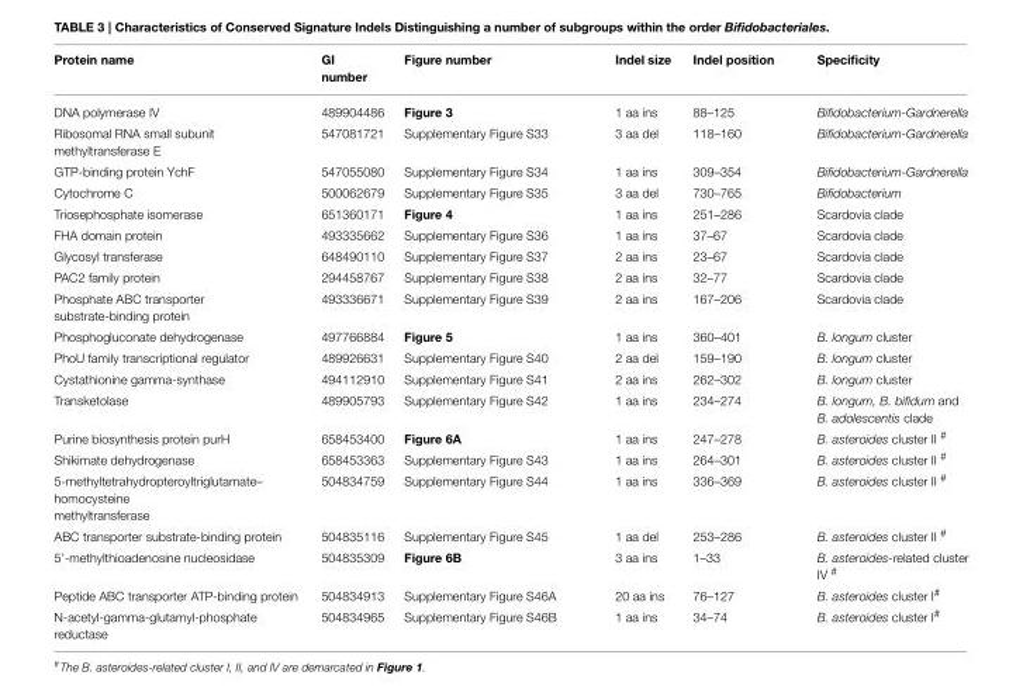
<table><thead><tr><td>Protein name</td><td>GI number</td><td>Figure number</td><td>Indel size</td><td>Indel position</td><td>Specificity</td></tr></thead><tbody><tr><td>DNA polymerase IV</td><td>489904486</td><td>Figure 3</td><td>1 aa ins</td><td>88–125</td><td>Bifidobacterium-Gardnerella</td></tr><tr><td>Ribosomal RNA small subunit methyltransferase E</td><td>547081721</td><td>Supplementary Figure S33</td><td>3 aa del</td><td>118–160</td><td>Bifidobacterium-Gardnerella</td></tr><tr><td>GTP-binding protein YchF</td><td>547055080</td><td>Supplementary Figure S34</td><td>1 aa ins</td><td>309–354</td><td>Bifidobacterium-Gardnerella</td></tr><tr><td>Cytochrome C</td><td>500062679</td><td>Supplementary Figure S35</td><td>3 aa del</td><td>730–765</td><td>Bifidobacterium</td></tr><tr><td>Triosephosphate isomerase</td><td>651360171</td><td>Figure 4</td><td>1 aa ins</td><td>251–286</td><td>Scardovia clade</td></tr><tr><td>FHA domain protein</td><td>493335662</td><td>Supplementary Figure S36</td><td>1 aa ins</td><td>37–67</td><td>Scardovia clade</td></tr><tr><td>Glycosyl transferase</td><td>648490110</td><td>Supplementary Figure S37</td><td>2 aa ins</td><td>23–67</td><td>Scardovia clade</td></tr><tr><td>PAC2 family protein</td><td>294458767</td><td>Supplementary Figure S38</td><td>2 aa ins</td><td>32–77</td><td>Scardovia clade</td></tr><tr><td>Phosphate ABC transporter substrate-binding protein</td><td>493336671</td><td>Supplementary Figure S39</td><td>2 aa ins</td><td>167–206</td><td>Scardovia clade</td></tr><tr><td>Phosphogluconate dehydrogenase</td><td>497766884</td><td>Figure 5</td><td>1 aa ins</td><td>360–401</td><td>B. longum cluster</td></tr><tr><td>PhoU family transcriptional regulator</td><td>489926631</td><td>Supplementary Figure S40</td><td>2 aa del</td><td>159–190</td><td>B. longum cluster</td></tr><tr><td>Cystathionine gamma-synthase</td><td>494112910</td><td>Supplementary Figure S41</td><td>2 aa ins</td><td>262–302</td><td>B. longum cluster</td></tr><tr><td>Transketolase</td><td>489905793</td><td>Supplementary Figure S42</td><td>1 aa ins</td><td>234–274</td><td>B. longum, B. bifidum and B. adolescentis clade</td></tr><tr><td>Purine biosynthesis protein purH</td><td>658453400</td><td>Figure 6A</td><td>1 aa ins</td><td>247–278</td><td>B. asteroides cluster II <sup>#</sup></td></tr><tr><td>Shikimate dehydrogenase</td><td>658453363</td><td>Supplementary Figure S43</td><td>1 aa ins</td><td>264–301</td><td>B. asteroides cluster II <sup>#</sup></td></tr><tr><td>5-methyltetrahydropteroyltriglutamate– homocysteine methyltransferase</td><td>504834759</td><td>Supplementary Figure S44</td><td>1 aa ins</td><td>336–369</td><td>B. asteroides cluster II <sup>#</sup></td></tr><tr><td>ABC transporter substrate-binding protein</td><td>504835116</td><td>Supplementary Figure S45</td><td>1 aa del</td><td>253–286</td><td>B. asteroides cluster II <sup>#</sup></td></tr><tr><td>5’-methylthioadenosine nucleosidase</td><td>504835309</td><td>Figure 6B</td><td>3 aa ins</td><td>1–33</td><td>B. asteroides-related cluster IV <sup>#</sup></td></tr><tr><td>Peptide ABC transporter ATP-binding protein</td><td>504834913</td><td>Supplementary Figure S46A</td><td>20 aa ins</td><td>76–127</td><td>B. asteroides cluster I<sup>#</sup></td></tr><tr><td>N-acetyl-gamma-glutamyl-phosphate reductase</td><td>504834965</td><td>Supplementary Figure S46B</td><td>1 aa ins</td><td>34–74</td><td>B. asteroides cluster I<sup>#</sup></td></tr></tbody></table>